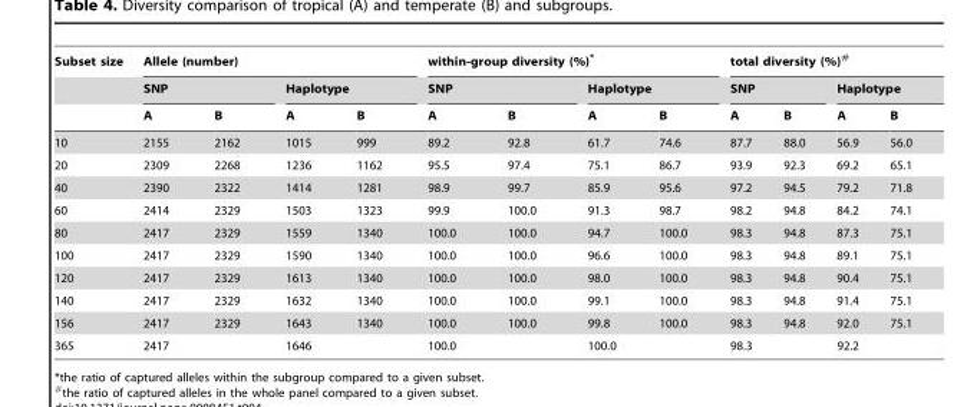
<table><thead><tr><td rowspan="3">Subset size</td><td colspan="4">Allele (number)</td><td colspan="4">within-group diversity (%)*</td><td colspan="4">total diversity (%)#</td></tr><tr><td colspan="2">SNP</td><td colspan="2">Haplotype</td><td colspan="2">SNP</td><td colspan="2">Haplotype</td><td colspan="2">SNP</td><td colspan="2">Haplotype</td></tr><tr><td>A</td><td>B</td><td>A</td><td>B</td><td>A</td><td>B</td><td>A</td><td>B</td><td>A</td><td>B</td><td>A</td><td>B</td></tr></thead><tbody><tr><td>10</td><td>2155</td><td>2162</td><td>1015</td><td>999</td><td>89.2</td><td>92.8</td><td>61.7</td><td>74.6</td><td>87.7</td><td>88.0</td><td>56.9</td><td>56.0</td></tr><tr><td>20</td><td>2309</td><td>2268</td><td>1236</td><td>1162</td><td>95.5</td><td>97.4</td><td>75.1</td><td>86.7</td><td>93.9</td><td>92.3</td><td>69.2</td><td>65.1</td></tr><tr><td>40</td><td>2390</td><td>2322</td><td>1414</td><td>1281</td><td>98.9</td><td>99.7</td><td>85.9</td><td>95.6</td><td>97.2</td><td>94.5</td><td>79.2</td><td>71.8</td></tr><tr><td>60</td><td>2414</td><td>2329</td><td>1503</td><td>1323</td><td>99.9</td><td>100.0</td><td>91.3</td><td>98.7</td><td>98.2</td><td>94.8</td><td>84.2</td><td>74.1</td></tr><tr><td>80</td><td>2417</td><td>2329</td><td>1559</td><td>1340</td><td>100.0</td><td>100.0</td><td>94.7</td><td>100.0</td><td>98.3</td><td>94.8</td><td>87.3</td><td>75.1</td></tr><tr><td>100</td><td>2417</td><td>2329</td><td>1590</td><td>1340</td><td>100.0</td><td>100.0</td><td>96.6</td><td>100.0</td><td>98.3</td><td>94.8</td><td>89.1</td><td>75.1</td></tr><tr><td>120</td><td>2417</td><td>2329</td><td>1613</td><td>1340</td><td>100.0</td><td>100.0</td><td>98.0</td><td>100.0</td><td>98.3</td><td>94.8</td><td>90.4</td><td>75.1</td></tr><tr><td>140</td><td>2417</td><td>2329</td><td>1632</td><td>1340</td><td>100.0</td><td>100.0</td><td>99.1</td><td>100.0</td><td>98.3</td><td>94.8</td><td>91.4</td><td>75.1</td></tr><tr><td>156</td><td>2417</td><td>2329</td><td>1643</td><td>1340</td><td>100.0</td><td>100.0</td><td>99.8</td><td>100.0</td><td>98.3</td><td>94.8</td><td>92.0</td><td>75.1</td></tr><tr><td>365</td><td>2417</td><td></td><td>1646</td><td></td><td>100.0</td><td></td><td>100.0</td><td></td><td>98.3</td><td></td><td>92.2</td><td></td></tr></tbody></table>